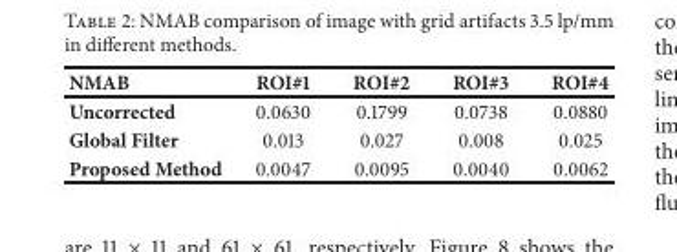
<table><thead><tr><td>NMAB</td><td>ROI#1</td><td>ROI#2</td><td>ROI#3</td><td>ROI#4</td></tr></thead><tbody><tr><td>Uncorrected</td><td>0.0630</td><td>0.1799</td><td>0.0738</td><td>0.0880</td></tr><tr><td>Global Filter</td><td>0.013</td><td>0.027</td><td>0.008</td><td>0.025</td></tr><tr><td>Proposed Method</td><td>0.0047</td><td>0.0095</td><td>0.0040</td><td>0.0062</td></tr></tbody></table>